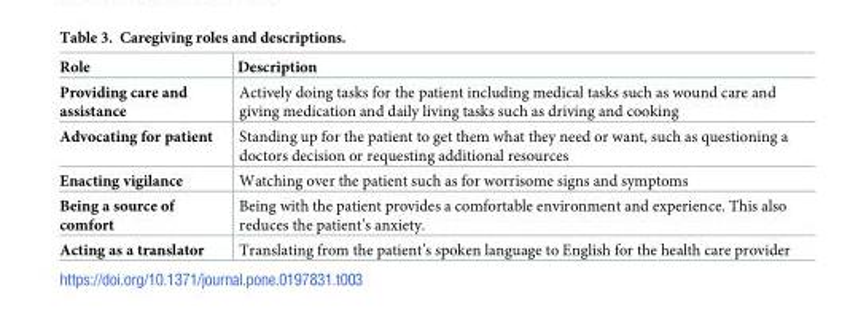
<table><thead><tr><td>Role</td><td>Description</td></tr></thead><tbody><tr><td>Providing care and assistance</td><td>Actively doing tasks for the patient including medical tasks such as wound care and giving medication and daily living tasks such as driving and cooking</td></tr><tr><td>Advocating for patient</td><td>Standing up for the patient to get them what they need or want, such as questioning a doctors decision or requesting additional resources</td></tr><tr><td>Enacting vigilance</td><td>Watching over the patient such as for worrisome signs and symptoms</td></tr><tr><td>Being a source of comfort</td><td>Being with the patient provides a comfortable environment and experience. This also reduces the patient’s anxiety.</td></tr><tr><td>Acting as a translator</td><td>Translating from the patient’s spoken language to English for the health care provider</td></tr></tbody></table>